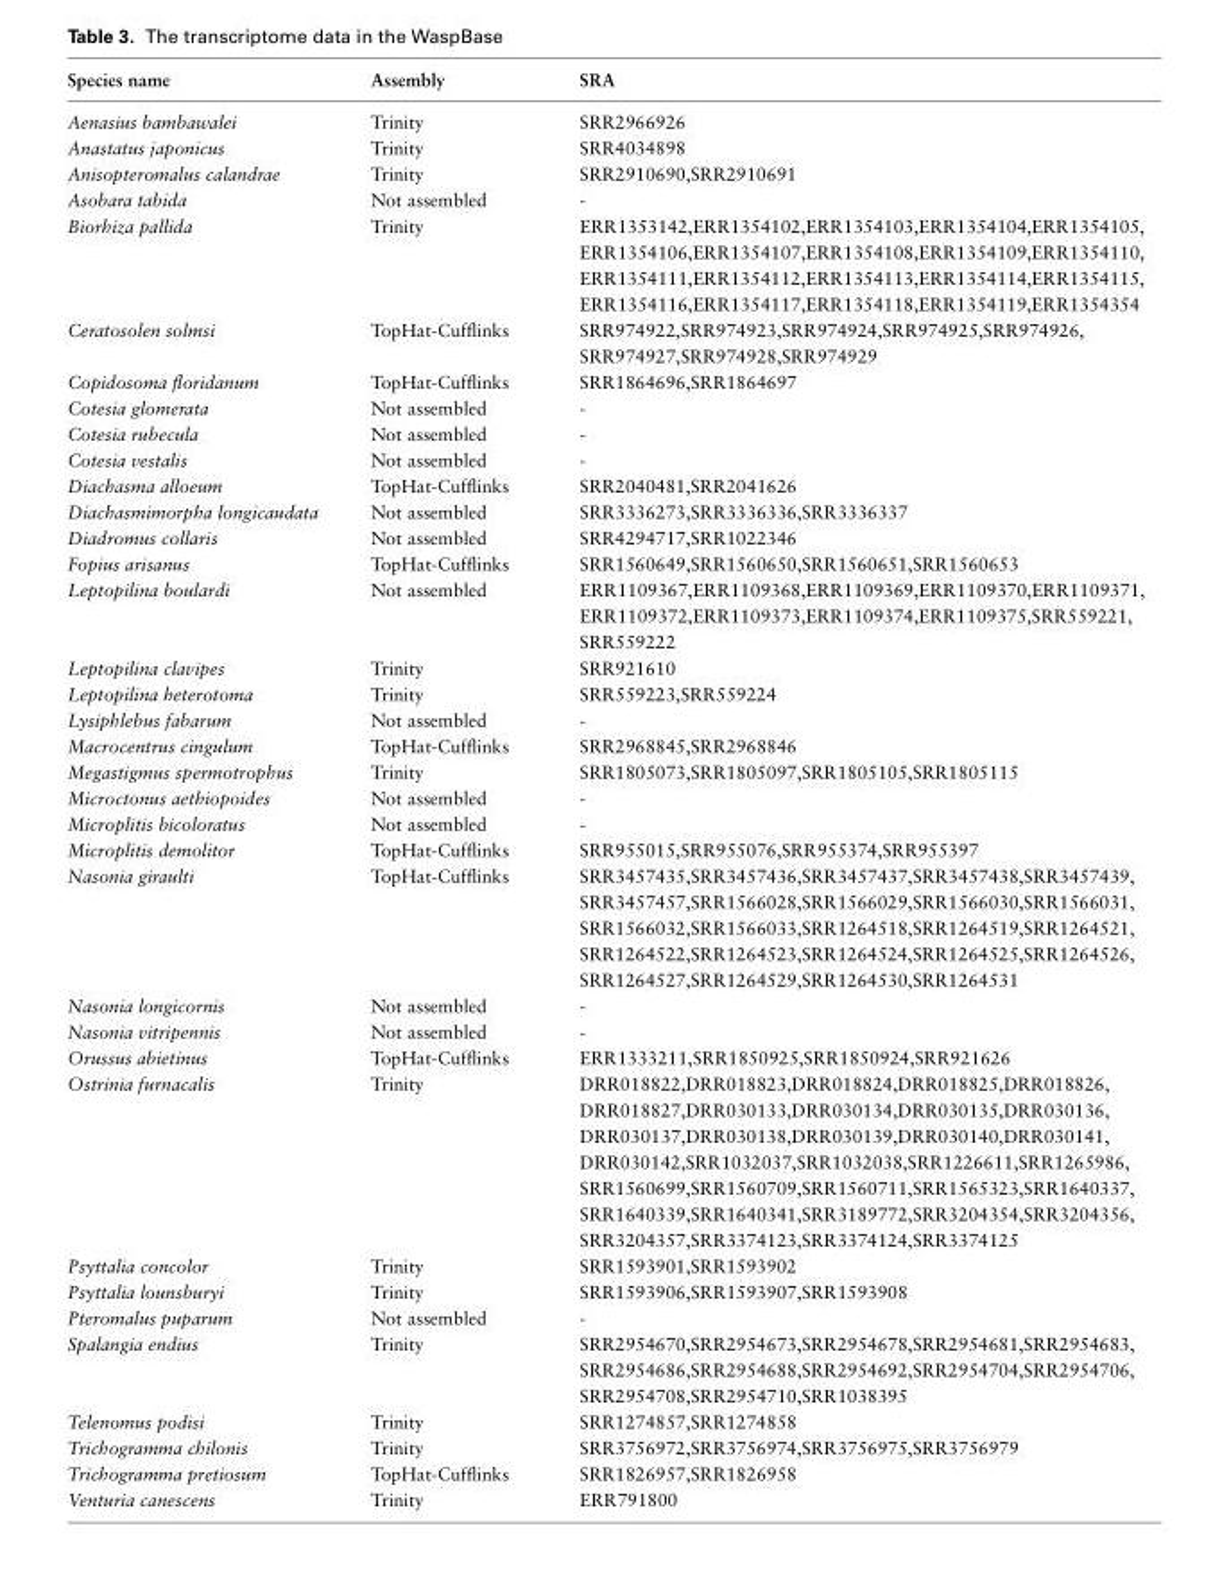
<table><thead><tr><td>Species name</td><td>Assembly</td><td>SRA</td></tr></thead><tbody><tr><td>Aenasius bambawalei</td><td>Trinity</td><td>SRR2966926</td></tr><tr><td>Anastatus japonicus</td><td>Trinity</td><td>SRR4034898</td></tr><tr><td>Anisopteromalus calandrae</td><td>Trinity</td><td>SRR2910690,SRR2910691</td></tr><tr><td>Asobara tabida</td><td>Not assembled</td><td>-</td></tr><tr><td>Biorhiza pallida</td><td>Trinity</td><td>ERR1353142,ERR1354102,ERR1354103,ERR1354104,ERR1354105, ERR1354106,ERR1354107,ERR1354108,ERR1354109,ERR1354110, ERR1354111,ERR1354112,ERR1354113,ERR1354114,ERR1354115, ERR1354116,ERR1354117,ERR1354118,ERR1354119,ERR1354354</td></tr><tr><td>Ceratosolen solmsi</td><td>TopHat-Cufflinks</td><td>SRR974922,SRR974923,SRR974924,SRR974925,SRR974926, SRR974927,SRR974928,SRR974929</td></tr><tr><td>Copidosoma floridanum</td><td>TopHat-Cufflinks</td><td>SRR1864696,SRR1864697</td></tr><tr><td>Cotesia glomerata</td><td>Not assembled</td><td>-</td></tr><tr><td>Cotesia rubecula</td><td>Not assembled</td><td>-</td></tr><tr><td>Cotesia vestalis</td><td>Not assembled</td><td>-</td></tr><tr><td>Diachasma alloeum</td><td>TopHat-Cufflinks</td><td>SRR2040481,SRR2041626</td></tr><tr><td>Diachasmimorpha longicaudata</td><td>Not assembled</td><td>SRR3336273,SRR3336336,SRR3336337</td></tr><tr><td>Diadromus collaris</td><td>Not assembled</td><td>SRR4294717,SRR1022346</td></tr><tr><td>Fopius arisanus</td><td>TopHat-Cufflinks</td><td>SRR1560649,SRR1560650,SRR1560651,SRR1560653</td></tr><tr><td>Leptopilina boulardi</td><td>Not assembled</td><td>ERR1109367,ERR1109368,ERR1109369,ERR1109370,ERR1109371, ERR1109372,ERR1109373,ERR1109374,ERR1109375,SRR559221, SRR559222</td></tr><tr><td>Leptopilina clavipes</td><td>Trinity</td><td>SRR921610</td></tr><tr><td>Leptopilina heterotoma</td><td>Trinity</td><td>SRR559223,SRR559224</td></tr><tr><td>Lysiphlebus fabarum</td><td>Not assembled</td><td>-</td></tr><tr><td>Macrocentrus cingulum</td><td>TopHat-Cufflinks</td><td>SRR2968845,SRR2968846</td></tr><tr><td>Megastigmus spermotrophus</td><td>Trinity</td><td>SRR1805073,SRR1805097,SRR1805105,SRR1805115</td></tr><tr><td>Microctonus aethiopoides</td><td>Not assembled</td><td>-</td></tr><tr><td>Microplitis bicoloratus</td><td>Not assembled</td><td>-</td></tr><tr><td>Microplitis demolitor</td><td>TopHat-Cufflinks</td><td>SRR955015,SRR955076,SRR955374,SRR955397</td></tr><tr><td>Nasonia giraulti</td><td>TopHat-Cufflinks</td><td>SRR3457435,SRR3457436,SRR3457437,SRR3457438,SRR3457439, SRR3457457,SRR1566028,SRR1566029,SRR1566030,SRR1566031, SRR1566032,SRR1566033,SRR1264518,SRR1264519,SRR1264521, SRR1264522,SRR1264523,SRR1264524,SRR1264525,SRR1264526, SRR1264527,SRR1264529,SRR1264530,SRR1264531</td></tr><tr><td>Nasonia longicornis</td><td>Not assembled</td><td>-</td></tr><tr><td>Nasonia vitripennis</td><td>Not assembled</td><td>-</td></tr><tr><td>Orussus abietinus</td><td>TopHat-Cufflinks</td><td>ERR1333211,SRR1850925,SRR1850924,SRR921626</td></tr><tr><td>Ostrinia furnacalis</td><td>Trinity</td><td>DRR018822,DRR018823,DRR018824,DRR018825,DRR018826, DRR018827,DRR030133,DRR030134,DRR030135,DRR030136, DRR030137,DRR030138,DRR030139,DRR030140,DRR030141, DRR030142,SRR1032037,SRR1032038,SRR1226611,SRR1265986, SRR1560699,SRR1560709,SRR1560711,SRR1565323,SRR1640337, SRR1640339,SRR1640341,SRR3189772,SRR3204354,SRR3204356, SRR3204357,SRR3374123,SRR3374124,SRR3374125</td></tr><tr><td>Psyttalia concolor</td><td>Trinity</td><td>SRR1593901,SRR1593902</td></tr><tr><td>Psyttalia lounsburyi</td><td>Trinity</td><td>SRR1593906,SRR1593907,SRR1593908</td></tr><tr><td>Pteromalus puparum</td><td>Not assembled</td><td>-</td></tr><tr><td>Spalangia endius</td><td>Trinity</td><td>SRR2954670,SRR2954673,SRR2954678,SRR2954681,SRR2954683, SRR2954686,SRR2954688,SRR2954692,SRR2954704,SRR2954706, SRR2954708,SRR2954710,SRR1038395</td></tr><tr><td>Telenomus podisi</td><td>Trinity</td><td>SRR1274857,SRR1274858</td></tr><tr><td>Trichogramma chilonis</td><td>Trinity</td><td>SRR3756972,SRR3756974,SRR3756975,SRR3756979</td></tr><tr><td>Trichogramma pretiosum</td><td>TopHat-Cufflinks</td><td>SRR1826957,SRR1826958</td></tr><tr><td>Venturia canescens</td><td>Trinity</td><td>ERR791800</td></tr></tbody></table>